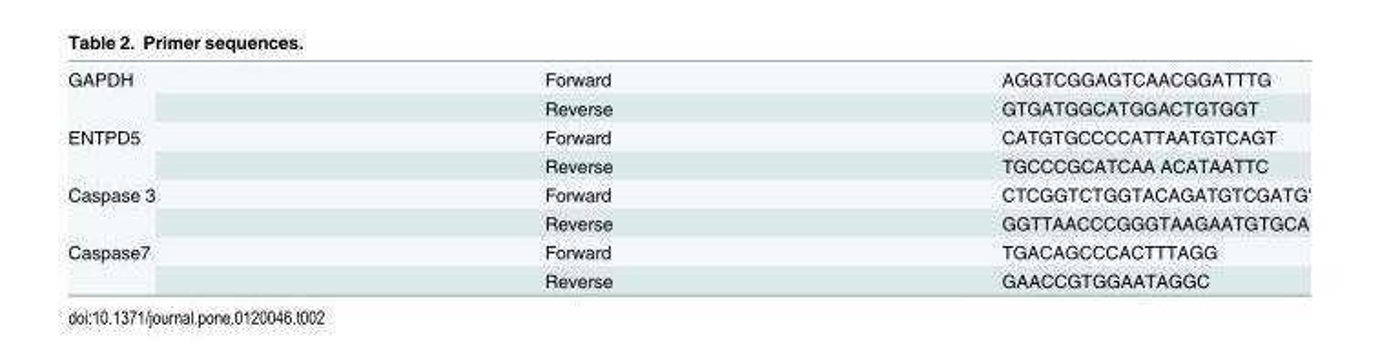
<table><tbody><tr><td rowspan="2">GAPDH</td><td>Forward</td><td>AGGTCGGAGTCAACGGATTTG</td></tr><tr><td>Reverse</td><td>GTGATGGCATGGACTGTGGT</td></tr><tr><td rowspan="2">ENTPD5</td><td>Forward</td><td>CATGTGCCCCATTAATGTCAGT</td></tr><tr><td>Reverse</td><td>TGCCCGCATCAA ACATAATTC</td></tr><tr><td rowspan="2">Caspase 3</td><td>Forward</td><td>CTCGGTCTGGTACAGATGTCGATG&#x27;</td></tr><tr><td>Reverse</td><td>GGTTAACCCGGGTAAGAATGTGCA</td></tr><tr><td rowspan="2">Caspase7</td><td>Forward</td><td>TGACAGCCCACTTTAGG</td></tr><tr><td>Reverse</td><td>GAACCGTGGAATAGGC</td></tr></tbody></table>